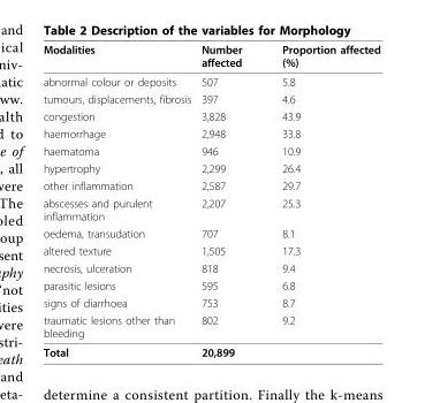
<table><thead><tr><td>Modalities</td><td>Number affected</td><td>Proportion affected (%)</td></tr></thead><tbody><tr><td>abnormal colour or deposits</td><td>507</td><td>5.8</td></tr><tr><td>tumours, displacements, fibrosis</td><td>397</td><td>4.6</td></tr><tr><td>congestion</td><td>3,828</td><td>43.9</td></tr><tr><td>haemorrhage</td><td>2,948</td><td>33.8</td></tr><tr><td>haematoma</td><td>946</td><td>10.9</td></tr><tr><td>hypertrophy</td><td>2,299</td><td>26.4</td></tr><tr><td>other inflammation</td><td>2,587</td><td>29.7</td></tr><tr><td>abscesses and purulent inflammation</td><td>2,207</td><td>25.3</td></tr><tr><td>oedema, transudation</td><td>707</td><td>8.1</td></tr><tr><td>altered texture</td><td>1,505</td><td>17.3</td></tr><tr><td>necrosis, ulceration</td><td>818</td><td>9.4</td></tr><tr><td>parasitic lesions</td><td>595</td><td>6.8</td></tr><tr><td>signs of diarrhoea</td><td>753</td><td>8.7</td></tr><tr><td>traumatic lesions other than bleeding</td><td>802</td><td>9.2</td></tr><tr><td>Total</td><td>20,899</td><td></td></tr></tbody></table>